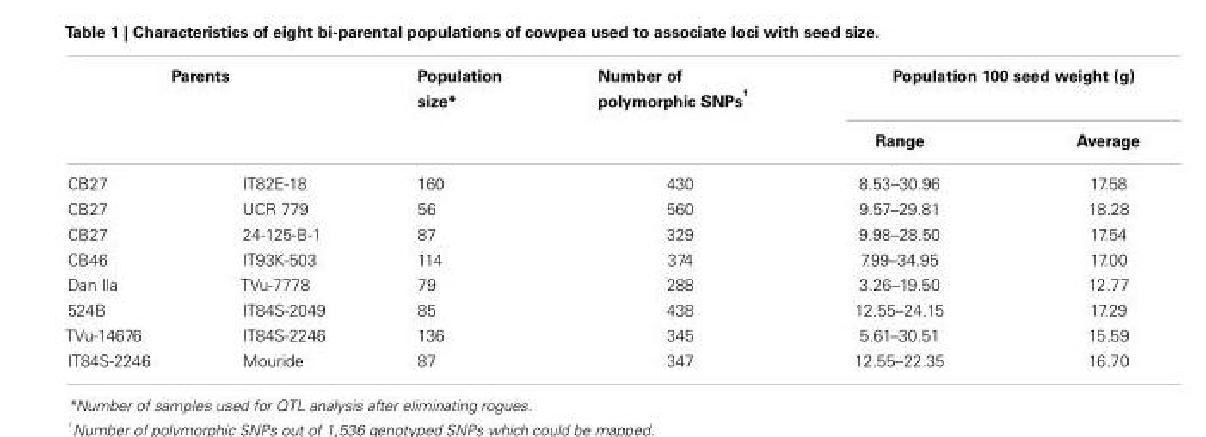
<table><thead><tr><td colspan="2">Parents</td><td rowspan="2">Population size*</td><td rowspan="2">Number of polymorphic SNPs <sup>†</sup></td><td colspan="2">Population 100 seed weight (g)</td></tr><tr><td></td><td></td><td>Range</td><td>Average</td></tr></thead><tbody><tr><td>CB27</td><td>IT82E-18</td><td>160</td><td>430</td><td>8.53–30.96</td><td>17.58</td></tr><tr><td>CB27</td><td>UCR 779</td><td>56</td><td>560</td><td>9.57–29.81</td><td>18.28</td></tr><tr><td>CB27</td><td>24-125-B-1</td><td>87</td><td>329</td><td>9.98–28.50</td><td>17.54</td></tr><tr><td>CB46</td><td>IT93K-503</td><td>114</td><td>374</td><td>7.99–34.95</td><td>17.00</td></tr><tr><td>Dan Ila</td><td>TVu-7778</td><td>79</td><td>288</td><td>3.26–19.50</td><td>12.77</td></tr><tr><td>524B</td><td>IT84S-2049</td><td>85</td><td>438</td><td>12.55–24.15</td><td>17.29</td></tr><tr><td>TVu-14676</td><td>IT84S-2246</td><td>136</td><td>345</td><td>5.61–30.51</td><td>15.59</td></tr><tr><td>IT84S-2246</td><td>Mouride</td><td>87</td><td>347</td><td>12.55–22.35</td><td>16.70</td></tr></tbody></table>